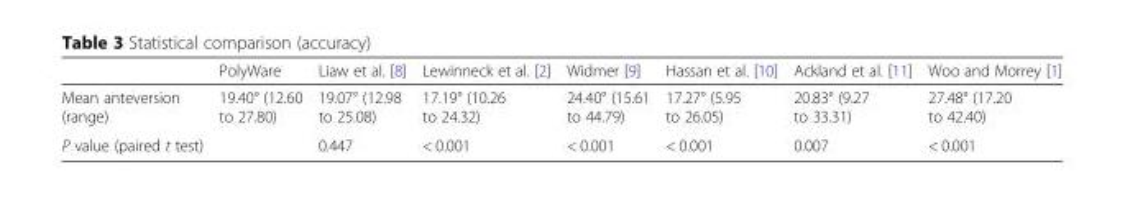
<table><thead><tr><td></td><td>PolyWare</td><td>Liaw et al. [8]</td><td>Lewinneck et al. [2]</td><td>Widmer [9]</td><td>Hassan et al. [10]</td><td>Ackland et al. [11]</td><td>Woo and Morrey [1]</td></tr></thead><tbody><tr><td>Mean anteversion (range)</td><td>19.40° (12.60 to 27.80)</td><td>19.07° (12.98 to 25.08)</td><td>17.19° (10.26 to 24.32)</td><td>24.40° (15.61 to 44.79)</td><td>17.27° (5.95 to 26.05)</td><td>20.83° (9.27 to 33.31)</td><td>27.48° (17.20 to 42.40)</td></tr><tr><td>P value (paired t test)</td><td></td><td>0.447</td><td>&lt; 0.001</td><td>&lt; 0.001</td><td>&lt; 0.001</td><td>0.007</td><td>&lt; 0.001</td></tr></tbody></table>